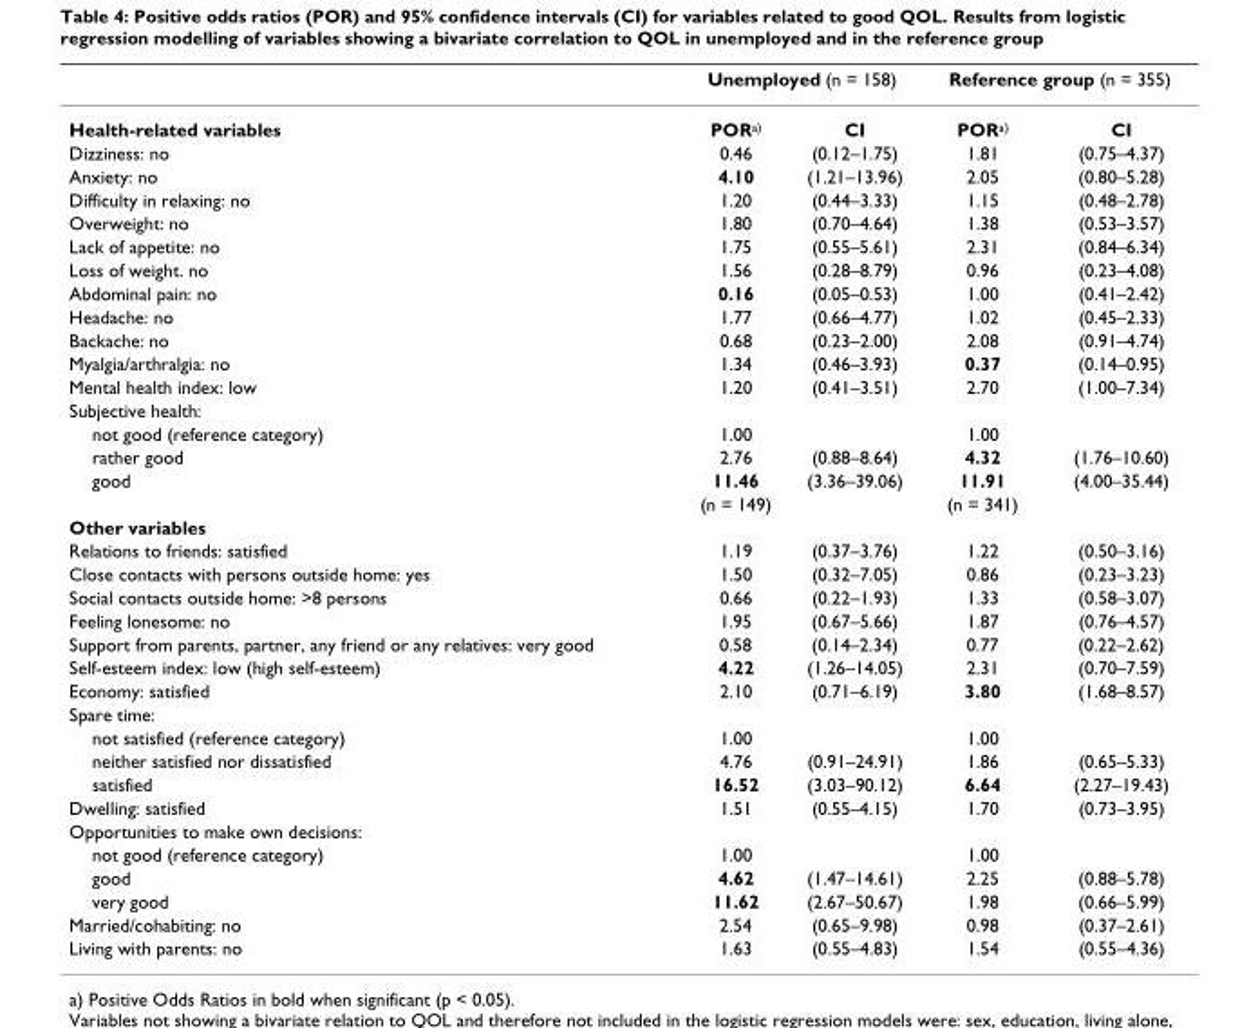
<table><thead><tr><td rowspan="2">Health-related variables</td><td colspan="2">Unemployed (n = 158)</td><td colspan="2">Reference group (n = 355)</td></tr><tr><td>POR<sup>a)</sup></td><td>CI</td><td>POR<sup>a)</sup></td><td>CI</td></tr></thead><tbody><tr><td>Dizziness: no</td><td>0.46</td><td>(0.12–1.75)</td><td>1.81</td><td>(0.75–4.37)</td></tr><tr><td>Anxiety: no</td><td>4.10</td><td>(1.21–13.96)</td><td>2.05</td><td>(0.80–5.28)</td></tr><tr><td>Difficulty in relaxing: no</td><td>1.20</td><td>(0.44–3.33)</td><td>1.15</td><td>(0.48–2.78)</td></tr><tr><td>Overweight: no</td><td>1.80</td><td>(0.70–4.64)</td><td>1.38</td><td>(0.53–3.57)</td></tr><tr><td>Lack of appetite: no</td><td>1.75</td><td>(0.55–5.61)</td><td>2.31</td><td>(0.84–6.34)</td></tr><tr><td>Loss of weight. no</td><td>1.56</td><td>(0.28–8.79)</td><td>0.96</td><td>(0.23–4.08)</td></tr><tr><td>Abdominal pain: no</td><td>0.16</td><td>(0.05–0.53)</td><td>1.00</td><td>(0.41–2.42)</td></tr><tr><td>Headache: no</td><td>1.77</td><td>(0.66–4.77)</td><td>1.02</td><td>(0.45–2.33)</td></tr><tr><td>Backache: no</td><td>0.68</td><td>(0.23–2.00)</td><td>2.08</td><td>(0.91–4.74)</td></tr><tr><td>Myalgia/arthralgia: no</td><td>1.34</td><td>(0.46–3.93)</td><td>0.37</td><td>(0.14–0.95)</td></tr><tr><td>Mental health index: low</td><td>1.20</td><td>(0.41–3.51)</td><td>2.70</td><td>(1.00–7.34)</td></tr><tr><td colspan="5">Subjective health:</td></tr><tr><td>not good (reference category)</td><td>1.00</td><td></td><td>1.00</td><td></td></tr><tr><td>rather good</td><td>2.76</td><td>(0.88–8.64)</td><td>4.32</td><td>(1.76–10.60)</td></tr><tr><td rowspan="2">good</td><td>11.46</td><td>(3.36–39.06)</td><td>11.91</td><td>(4.00–35.44)</td></tr><tr><td>(n = 149)</td><td></td><td>(n = 341)</td><td></td></tr><tr><td colspan="5">Other variables</td></tr><tr><td>Relations to friends: satisfied</td><td>1.19</td><td>(0.37–3.76)</td><td>1.22</td><td>(0.50–3.16)</td></tr><tr><td>Close contacts with persons outside home: yes</td><td>1.50</td><td>(0.32–7.05)</td><td>0.86</td><td>(0.23–3.23)</td></tr><tr><td>Social contacts outside home: &gt;8 persons</td><td>0.66</td><td>(0.22–1.93)</td><td>1.33</td><td>(0.58–3.07)</td></tr><tr><td>Feeling lonesome: no</td><td>1.95</td><td>(0.67–5.66)</td><td>1.87</td><td>(0.76–4.57)</td></tr><tr><td>Support from parents, partner, any friend or any relatives: very good</td><td>0.58</td><td>(0.14–2.34)</td><td>0.77</td><td>(0.22–2.62)</td></tr><tr><td>Self-esteem index: low (high self-esteem)</td><td>4.22</td><td>(1.26–14.05)</td><td>2.31</td><td>(0.70–7.59)</td></tr><tr><td>Economy: satisfied</td><td>2.10</td><td>(0.71–6.19)</td><td>3.80</td><td>(1.68–8.57)</td></tr><tr><td colspan="5">Spare time:</td></tr><tr><td>not satisfied (reference category)</td><td>1.00</td><td></td><td>1.00</td><td></td></tr><tr><td>neither satisfied nor dissatisfied</td><td>4.76</td><td>(0.91–24.91)</td><td>1.86</td><td>(0.65–5.33)</td></tr><tr><td>satisfied</td><td>16.52</td><td>(3.03–90.12)</td><td>6.64</td><td>(2.27–19.43)</td></tr><tr><td>Dwelling: satisfied</td><td>1.51</td><td>(0.55–4.15)</td><td>1.70</td><td>(0.73–3.95)</td></tr><tr><td colspan="5">Opportunities to make own decisions:</td></tr><tr><td>not good (reference category)</td><td>1.00</td><td></td><td>1.00</td><td></td></tr><tr><td>good</td><td>4.62</td><td>(1.47–14.61)</td><td>2.25</td><td>(0.88–5.78)</td></tr><tr><td>very good</td><td>11.62</td><td>(2.67–50.67)</td><td>1.98</td><td>(0.66–5.99)</td></tr><tr><td>Married/cohabiting: no</td><td>2.54</td><td>(0.65–9.98)</td><td>0.98</td><td>(0.37–2.61)</td></tr><tr><td>Living with parents: no</td><td>1.63</td><td>(0.55–4.83)</td><td>1.54</td><td>(0.55–4.36)</td></tr></tbody></table>